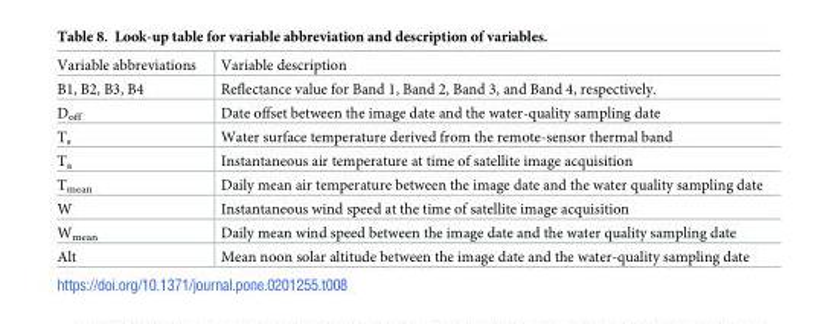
<table><thead><tr><td>Variable abbreviations</td><td>Variable description</td></tr></thead><tbody><tr><td>B1, B2, B3, B4</td><td>Reflectance value for Band 1, Band 2, Band 3, and Band 4, respectively.</td></tr><tr><td>D<sub>off</sub></td><td>Date offset between the image date and the water-quality sampling date</td></tr><tr><td>T<sub>s</sub></td><td>Water surface temperature derived from the remote-sensor thermal band</td></tr><tr><td>T<sub>a</sub></td><td>Instantaneous air temperature at time of satellite image acquisition</td></tr><tr><td>T<sub>mean</sub></td><td>Daily mean air temperature between the image date and the water quality sampling date</td></tr><tr><td>W</td><td>Instantaneous wind speed at the time of satellite image acquisition</td></tr><tr><td>W<sub>mean</sub></td><td>Daily mean wind speed between the image date and the water quality sampling date</td></tr><tr><td>Alt</td><td>Mean noon solar altitude between the image date and the water-quality sampling date</td></tr></tbody></table>